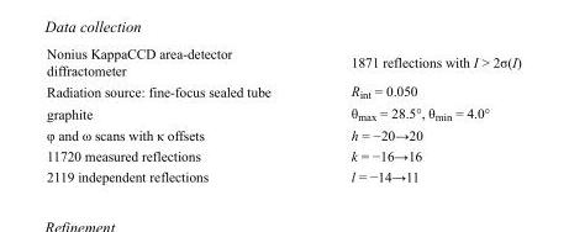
<table><tbody><tr><td>Nonius KappaCCD area-detector diffractometer</td><td>1871 reflections with I &gt; 2σ(I)</td></tr><tr><td>Radiation source: fine-focus sealed tube</td><td>R<sub>int</sub> = 0.050</td></tr><tr><td>graphite</td><td>θ<sub>max</sub> = 28.5°, θ<sub>min</sub> = 4.0°</td></tr><tr><td>φ and ω scans with κ offsets</td><td>h = −20→20</td></tr><tr><td>11720 measured reflections</td><td>k = −16→16</td></tr><tr><td>2119 independent reflections</td><td>l = −14→11</td></tr></tbody></table>